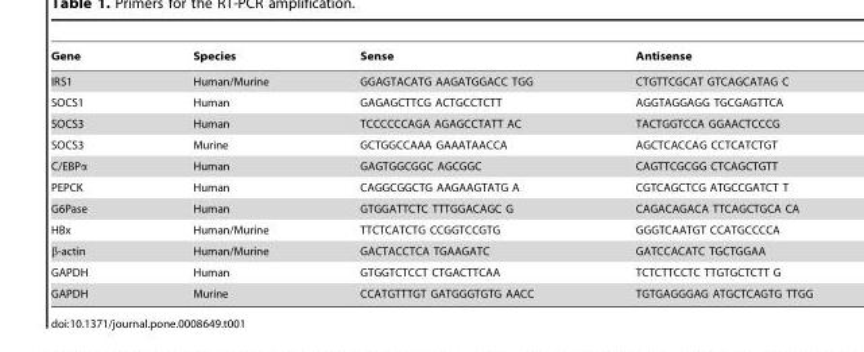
<table><thead><tr><td>Gene</td><td>Species</td><td>Sense</td><td>Antisense</td></tr></thead><tbody><tr><td>IRS1</td><td>Human/Murine</td><td>GGAGTACATG AAGATGGACC TGG</td><td>CTGTTCGCAT GTCAGCATAG C</td></tr><tr><td>SOCS1</td><td>Human</td><td>GAGAGCTTCG ACTGCCTCTT</td><td>AGGTAGGAGG TGCGAGTTCA</td></tr><tr><td>SOCS3</td><td>Human</td><td>TCCCCCCAGA AGAGCCTATT AC</td><td>TACTGGTCCA GGAACTCCCG</td></tr><tr><td>SOCS3</td><td>Murine</td><td>GCTGGCCAAA GAAATAACCA</td><td>AGCTCACCAG CCTCATCTGT</td></tr><tr><td>C/EBPα</td><td>Human</td><td>GAGTGGCGGC AGCGGC</td><td>CAGTTCGCGG CTCAGCTGTT</td></tr><tr><td>PEPCK</td><td>Human</td><td>CAGGCGGCTG AAGAAGTATG A</td><td>CGTCAGCTCG ATGCCGATCT T</td></tr><tr><td>G6Pase</td><td>Human</td><td>GTGGATTCTC TTTGGACAGC G</td><td>CAGACAGACA TTCAGCTGCA CA</td></tr><tr><td>HBx</td><td>Human/Murine</td><td>TTCTCATCTG CCGGTCCGTG</td><td>GGGTCAATGT CCATGCCCCA</td></tr><tr><td>β-actin</td><td>Human/Murine</td><td>GACTACCTCA TGAAGATC</td><td>GATCCACATC TGCTGGAA</td></tr><tr><td>GAPDH</td><td>Human</td><td>GTGGTCTCCT CTGACTTCAA</td><td>TCTCTTCCTC TTGTGCTCTT G</td></tr><tr><td>GAPDH</td><td>Murine</td><td>CCATGTTTGT GATGGGTGTG AACC</td><td>TGTGAGGGAG ATGCTCAGTG TTGG</td></tr></tbody></table>